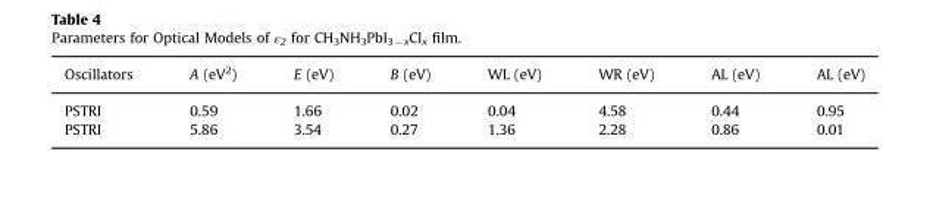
<table><thead><tr><td>Oscillators</td><td>A (eV<sup>2</sup>)</td><td>E (eV)</td><td>B (eV)</td><td>WL (eV)</td><td>WR (eV)</td><td>AL (eV)</td><td>AL (eV)</td></tr></thead><tbody><tr><td>PSTRI</td><td>0.59</td><td>1.66</td><td>0.02</td><td>0.04</td><td>4.58</td><td>0.44</td><td>0.95</td></tr><tr><td>PSTRI</td><td>5.86</td><td>3.54</td><td>0.27</td><td>1.36</td><td>2.28</td><td>0.86</td><td>0.01</td></tr></tbody></table>